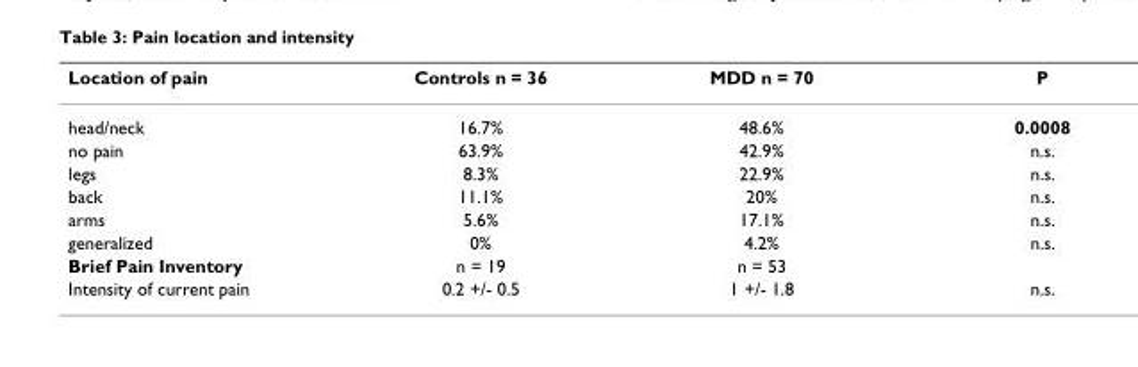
<table><thead><tr><td>Location of pain</td><td>Controls n = 36</td><td>MDD n = 70</td><td>P</td></tr></thead><tbody><tr><td>head/neck</td><td>16.7%</td><td>48.6%</td><td>0.0008</td></tr><tr><td>no pain</td><td>63.9%</td><td>42.9%</td><td>n.s.</td></tr><tr><td>legs</td><td>8.3%</td><td>22.9%</td><td>n.s.</td></tr><tr><td>back</td><td>11.1%</td><td>20%</td><td>n.s.</td></tr><tr><td>arms</td><td>5.6%</td><td>17.1%</td><td>n.s.</td></tr><tr><td>generalized</td><td>0%</td><td>4.2%</td><td>n.s.</td></tr><tr><td>Brief Pain Inventory</td><td>n = 19</td><td>n = 53</td><td></td></tr><tr><td>Intensity of current pain</td><td>0.2 +/- 0.5</td><td>1 +/- 1.8</td><td>n.s.</td></tr></tbody></table>